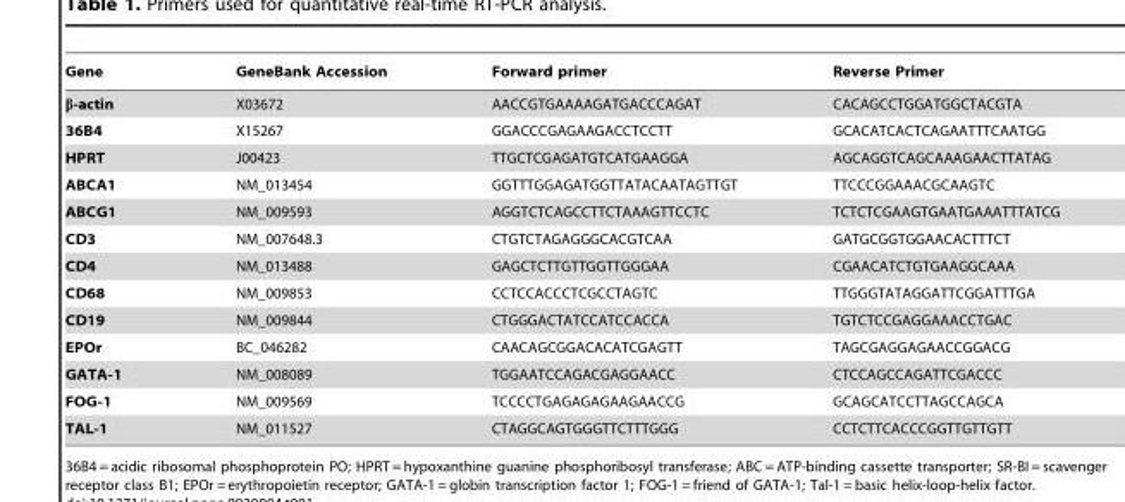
<table><thead><tr><td>Gene</td><td>GeneBank Accession</td><td>Forward primer</td><td>Reverse Primer</td></tr></thead><tbody><tr><td>β-actin</td><td>X03672</td><td>AACCGTGAAAAGATGACCCAGAT</td><td>CACAGCCTGGATGGCTACGTA</td></tr><tr><td>36B4</td><td>X15267</td><td>GGACCCGAGAAGACCTCCTT</td><td>GCACATCACTCAGAATTTCAATGG</td></tr><tr><td>HPRT</td><td>J00423</td><td>TTGCTCGAGATGTCATGAAGGA</td><td>AGCAGGTCAGCAAAGAACTTATAG</td></tr><tr><td>ABCA1</td><td>NM_013454</td><td>GGTTTGGAGATGGTTATACAATAGTTGT</td><td>TTCCCGGAAACGCAAGTC</td></tr><tr><td>ABCG1</td><td>NM_009593</td><td>AGGTCTCAGCCTTCTAAAGTTCCTC</td><td>TCTCTCGAAGTGAATGAAATTTATCG</td></tr><tr><td>CD3</td><td>NM_007648.3</td><td>CTGTCTAGAGGGCACGTCAA</td><td>GATGCGGTGGAACACTTTCT</td></tr><tr><td>CD4</td><td>NM_013488</td><td>GAGCTCTTGTTGGTTGGGAA</td><td>CGAACATCTGTGAAGGCAAA</td></tr><tr><td>CD68</td><td>NM_009853</td><td>CCTCCACCCTCGCCTAGTC</td><td>TTGGGTATAGGATTCGGATTTGA</td></tr><tr><td>CD19</td><td>NM_009844</td><td>CTGGGACTATCCATCCACCA</td><td>TGTCTCCGAGGAAACCTGAC</td></tr><tr><td>EPOr</td><td>BC_046282</td><td>CAACAGCGGACACATCGAGTT</td><td>TAGCGAGGAGAACCGGACG</td></tr><tr><td>GATA-1</td><td>NM_008089</td><td>TGGAATCCAGACGAGGAACC</td><td>CTCCAGCCAGATTCGACCC</td></tr><tr><td>FOG-1</td><td>NM_009569</td><td>TCCCCTGAGAGAGAAGAACCG</td><td>GCAGCATCCTTAGCCAGCA</td></tr><tr><td>TAL-1</td><td>NM_011527</td><td>CTAGGCAGTGGGTTCTTTGGG</td><td>CCTCTTCACCCGGTTGTTGTT</td></tr></tbody></table>